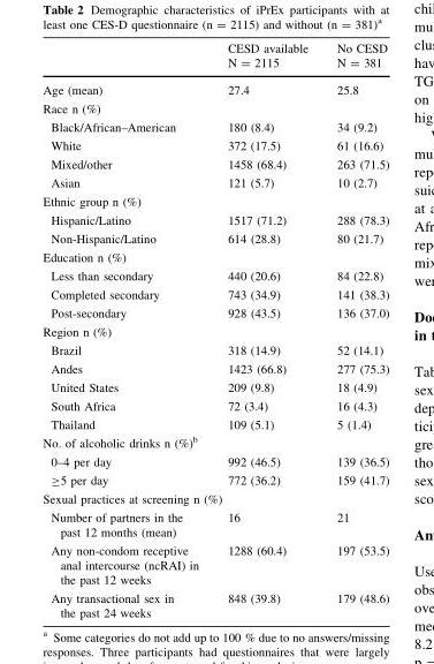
<table><thead><tr><td rowspan="2"></td><td rowspan="2">CESD available N = 2115</td><td rowspan="2">No CESD N = 381</td></tr><tr></tr></thead><tbody><tr><td>Age (mean)</td><td>27.4</td><td>25.8</td></tr><tr><td colspan="3">Race n (%)</td></tr><tr><td>Black/African–American</td><td>180 (8.4)</td><td>34 (9.2)</td></tr><tr><td>White</td><td>372 (17.5)</td><td>61 (16.6)</td></tr><tr><td>Mixed/other</td><td>1458 (68.4)</td><td>263 (71.5)</td></tr><tr><td>Asian</td><td>121 (5.7)</td><td>10 (2.7)</td></tr><tr><td colspan="3">Ethnic group n (%)</td></tr><tr><td>Hispanic/Latino</td><td>1517 (71.2)</td><td>288 (78.3)</td></tr><tr><td>Non-Hispanic/Latino</td><td>614 (28.8)</td><td>80 (21.7)</td></tr><tr><td colspan="3">Education n (%)</td></tr><tr><td>Less than secondary</td><td>440 (20.6)</td><td>84 (22.8)</td></tr><tr><td>Completed secondary</td><td>743 (34.9)</td><td>141 (38.3)</td></tr><tr><td>Post-secondary</td><td>928 (43.5)</td><td>136 (37.0)</td></tr><tr><td colspan="3">Region n (%)</td></tr><tr><td>Brazil</td><td>318 (14.9)</td><td>52 (14.1)</td></tr><tr><td>Andes</td><td>1423 (66.8)</td><td>277 (75.3)</td></tr><tr><td>United States</td><td>209 (9.8)</td><td>18 (4.9)</td></tr><tr><td>South Africa</td><td>72 (3.4)</td><td>16 (4.3)</td></tr><tr><td>Thailand</td><td>109 (5.1)</td><td>5 (1.4)</td></tr><tr><td colspan="3">No. of alcoholic drinks n (%)<sup>b</sup></td></tr><tr><td>0–4 per day</td><td>992 (46.5)</td><td>139 (36.5)</td></tr><tr><td>≥5 per day</td><td>772 (36.2)</td><td>159 (41.7)</td></tr><tr><td colspan="3">Sexual practices at screening n (%)</td></tr><tr><td>Number of partners in the past 12 months (mean)</td><td>16</td><td>21</td></tr><tr><td>Any non-condom receptive anal intercourse (ncRAI) in the past 12 weeks</td><td>1288 (60.4)</td><td>197 (53.5)</td></tr><tr><td>Any transactional sex in the past 24 weeks</td><td>848 (39.8)</td><td>179 (48.6)</td></tr></tbody></table>